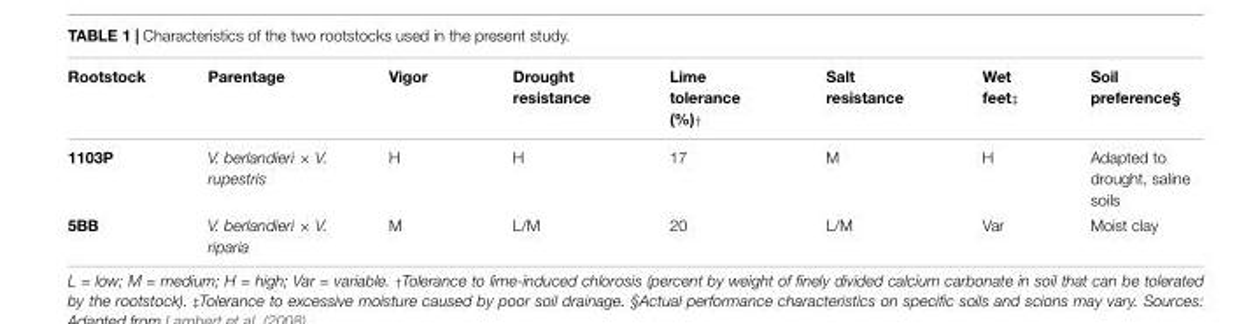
<table><thead><tr><td>Rootstock</td><td>Parentage</td><td>Vigor</td><td>Drought resistance</td><td>Lime tolerance (%)†</td><td>Salt resistance</td><td>Wet feet‡</td><td>Soil preference§</td></tr></thead><tbody><tr><td>1103P</td><td>V. berlandieri × V. rupestris</td><td>H</td><td>H</td><td>17</td><td>M</td><td>H</td><td>Adapted to drought, saline soils</td></tr><tr><td>5BB</td><td>V. berlandieri × V. riparia</td><td>M</td><td>L/M</td><td>20</td><td>L/M</td><td>Var</td><td>Moist clay</td></tr></tbody></table>